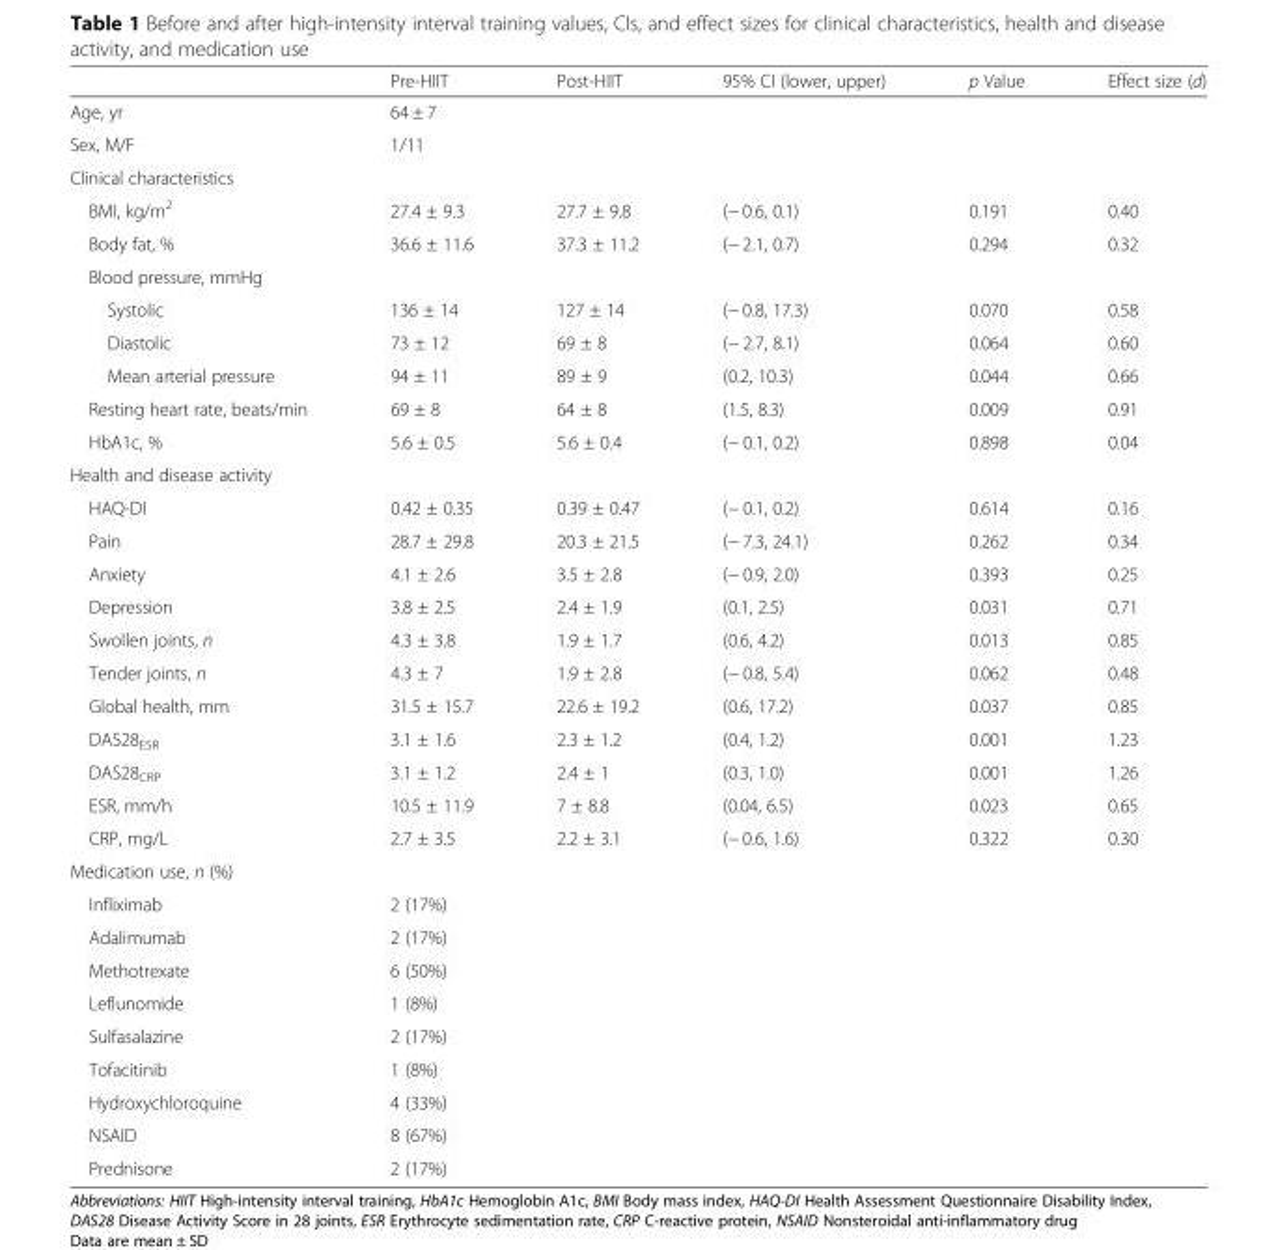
<table><thead><tr><td></td><td>Pre-HIIT</td><td>Post-HIIT</td><td>95% CI (lower, upper)</td><td>p Value</td><td>Effect size (d)</td></tr></thead><tbody><tr><td>Age, yr</td><td colspan="2">64 ± 7</td><td></td><td></td><td></td></tr><tr><td>Sex, M/F</td><td colspan="2">1/11</td><td></td><td></td><td></td></tr><tr><td colspan="6">Clinical characteristics</td></tr><tr><td>BMI, kg/m<sup>2</sup></td><td>27.4 ± 9.3</td><td>27.7 ± 9.8</td><td>(− 0.6, 0.1)</td><td>0.191</td><td>0.40</td></tr><tr><td>Body fat, %</td><td>36.6 ± 11.6</td><td>37.3 ± 11.2</td><td>(− 2.1, 0.7)</td><td>0.294</td><td>0.32</td></tr><tr><td colspan="6">Blood pressure, mmHg</td></tr><tr><td>Systolic</td><td>136 ± 14</td><td>127 ± 14</td><td>(− 0.8, 17.3)</td><td>0.070</td><td>0.58</td></tr><tr><td>Diastolic</td><td>73 ± 12</td><td>69 ± 8</td><td>(− 2.7, 8.1)</td><td>0.064</td><td>0.60</td></tr><tr><td>Mean arterial pressure</td><td>94 ± 11</td><td>89 ± 9</td><td>(0.2, 10.3)</td><td>0.044</td><td>0.66</td></tr><tr><td>Resting heart rate, beats/min</td><td>69 ± 8</td><td>64 ± 8</td><td>(1.5, 8.3)</td><td>0.009</td><td>0.91</td></tr><tr><td>HbA1c, %</td><td>5.6 ± 0.5</td><td>5.6 ± 0.4</td><td>(− 0.1, 0.2)</td><td>0.898</td><td>0.04</td></tr><tr><td colspan="6">Health and disease activity</td></tr><tr><td>HAQ-DI</td><td>0.42 ± 0.35</td><td>0.39 ± 0.47</td><td>(− 0.1, 0.2)</td><td>0.614</td><td>0.16</td></tr><tr><td>Pain</td><td>28.7 ± 29.8</td><td>20.3 ± 21.5</td><td>(− 7.3, 24.1)</td><td>0.262</td><td>0.34</td></tr><tr><td>Anxiety</td><td>4.1 ± 2.6</td><td>3.5 ± 2.8</td><td>(− 0.9, 2.0)</td><td>0.393</td><td>0.25</td></tr><tr><td>Depression</td><td>3.8 ± 2.5</td><td>2.4 ± 1.9</td><td>(0.1, 2.5)</td><td>0.031</td><td>0.71</td></tr><tr><td>Swollen joints, n</td><td>4.3 ± 3.8</td><td>1.9 ± 1.7</td><td>(0.6, 4.2)</td><td>0.013</td><td>0.85</td></tr><tr><td>Tender joints, n</td><td>4.3 ± 7</td><td>1.9 ± 2.8</td><td>(− 0.8, 5.4)</td><td>0.062</td><td>0.48</td></tr><tr><td>Global health, mm</td><td>31.5 ± 15.7</td><td>22.6 ± 19.2</td><td>(0.6, 17.2)</td><td>0.037</td><td>0.85</td></tr><tr><td>DAS28<sub>ESR</sub></td><td>3.1 ± 1.6</td><td>2.3 ± 1.2</td><td>(0.4, 1.2)</td><td>0.001</td><td>1.23</td></tr><tr><td>DAS28<sub>CRP</sub></td><td>3.1 ± 1.2</td><td>2.4 ± 1</td><td>(0.3, 1.0)</td><td>0.001</td><td>1.26</td></tr><tr><td>ESR, mm/h</td><td>10.5 ± 11.9</td><td>7 ± 8.8</td><td>(0.04, 6.5)</td><td>0.023</td><td>0.65</td></tr><tr><td>CRP, mg/L</td><td>2.7 ± 3.5</td><td>2.2 ± 3.1</td><td>(− 0.6, 1.6)</td><td>0.322</td><td>0.30</td></tr><tr><td colspan="6">Medication use, n (%)</td></tr><tr><td>Infliximab</td><td colspan="2">2 (17%)</td><td></td><td></td><td></td></tr><tr><td>Adalimumab</td><td colspan="2">2 (17%)</td><td></td><td></td><td></td></tr><tr><td>Methotrexate</td><td colspan="2">6 (50%)</td><td></td><td></td><td></td></tr><tr><td>Leflunomide</td><td colspan="2">1 (8%)</td><td></td><td></td><td></td></tr><tr><td>Sulfasalazine</td><td colspan="2">2 (17%)</td><td></td><td></td><td></td></tr><tr><td>Tofacitinib</td><td colspan="2">1 (8%)</td><td></td><td></td><td></td></tr><tr><td>Hydroxychloroquine</td><td colspan="2">4 (33%)</td><td></td><td></td><td></td></tr><tr><td>NSAID</td><td colspan="2">8 (67%)</td><td></td><td></td><td></td></tr><tr><td>Prednisone</td><td colspan="2">2 (17%)</td><td></td><td></td><td></td></tr></tbody></table>